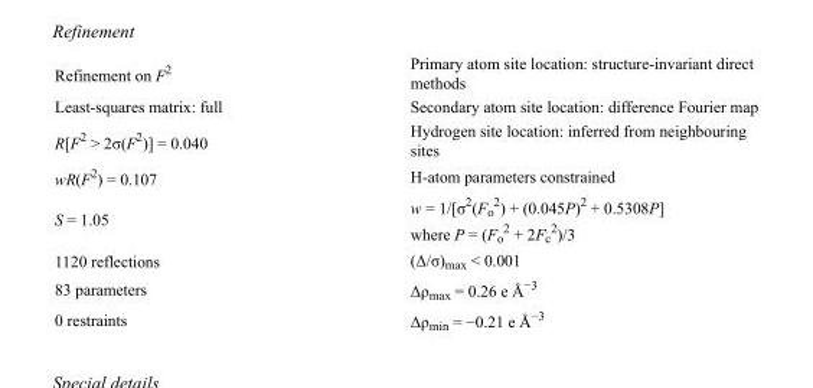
<table><tbody><tr><td>Refinement on F<sup>2</sup></td><td>Primary atom site location: structure-invariant direct methods</td></tr><tr><td>Least-squares matrix: full</td><td>Secondary atom site location: difference Fourier map</td></tr><tr><td>R[F<sup>2</sup> &gt; 2σ(F<sup>2</sup>)] = 0.040</td><td>Hydrogen site location: inferred from neighbouring sites</td></tr><tr><td>wR(F<sup>2</sup>) = 0.107</td><td>H-atom parameters constrained</td></tr><tr><td>S = 1.05</td><td>w = 1/[σ<sup>2</sup>(F<sub>o</sub> <sup>2</sup>) + (0.045P)<sup>2</sup> + 0.5308P] where P = (F<sub>o</sub> <sup>2</sup> + 2F<sub>c</sub> <sup>2</sup>)/3</td></tr><tr><td>1120 reflections</td><td>(Δ/σ)<sub>max</sub> &lt; 0.001</td></tr><tr><td>83 parameters</td><td>Δρ<sub>max</sub> = 0.26 e Å<sup>−3</sup></td></tr><tr><td>0 restraints</td><td>Δρ<sub>min</sub> = −0.21 e Å<sup>−3</sup></td></tr></tbody></table>